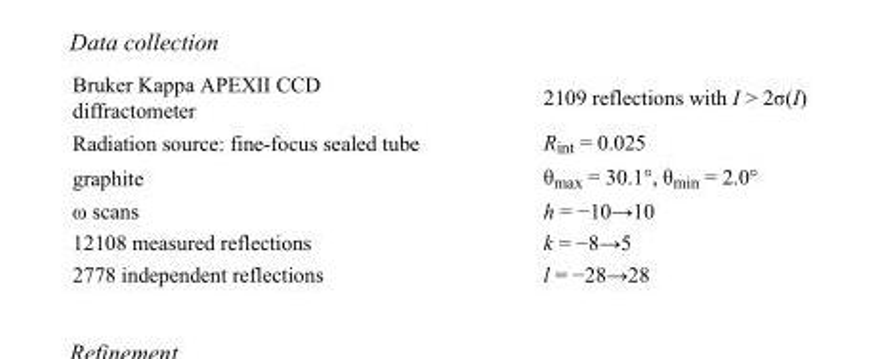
<table><tbody><tr><td>Bruker Kappa APEXII CCD diffractometer</td><td>2109 reflections with I &gt; 2σ(I)</td></tr><tr><td>Radiation source: fine-focus sealed tube</td><td>R<sub>int</sub> = 0.025</td></tr><tr><td>graphite</td><td>θ<sub>max</sub> = 30.1°, θ<sub>min</sub> = 2.0°</td></tr><tr><td>ω scans</td><td>h = −10→10</td></tr><tr><td>12108 measured reflections</td><td>k = −8→5</td></tr><tr><td>2778 independent reflections</td><td>l = −28→28</td></tr></tbody></table>